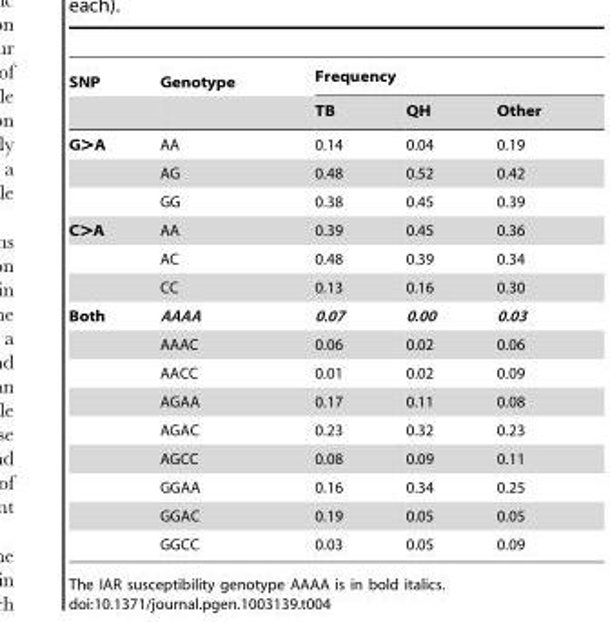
<table><thead><tr><td rowspan="2">SNP</td><td rowspan="2">Genotype</td><td colspan="3">Frequency</td></tr><tr><td>TB</td><td>QH</td><td>Other</td></tr></thead><tbody><tr><td rowspan="3">G&gt;A</td><td>AA</td><td>0.14</td><td>0.04</td><td>0.19</td></tr><tr><td>AG</td><td>0.48</td><td>0.52</td><td>0.42</td></tr><tr><td>GG</td><td>0.38</td><td>0.45</td><td>0.39</td></tr><tr><td rowspan="3">C&gt;A</td><td>AA</td><td>0.39</td><td>0.45</td><td>0.36</td></tr><tr><td>AC</td><td>0.48</td><td>0.39</td><td>0.34</td></tr><tr><td>CC</td><td>0.13</td><td>0.16</td><td>0.30</td></tr><tr><td rowspan="9">Both</td><td>AAAA</td><td>0.07</td><td>0.00</td><td>0.03</td></tr><tr><td>AAAC</td><td>0.06</td><td>0.02</td><td>0.06</td></tr><tr><td>AACC</td><td>0.01</td><td>0.02</td><td>0.09</td></tr><tr><td>AGAA</td><td>0.17</td><td>0.11</td><td>0.08</td></tr><tr><td>AGAC</td><td>0.23</td><td>0.32</td><td>0.23</td></tr><tr><td>AGCC</td><td>0.08</td><td>0.09</td><td>0.11</td></tr><tr><td>GGAA</td><td>0.16</td><td>0.34</td><td>0.25</td></tr><tr><td>GGAC</td><td>0.19</td><td>0.05</td><td>0.05</td></tr><tr><td>GGCC</td><td>0.03</td><td>0.05</td><td>0.09</td></tr></tbody></table>